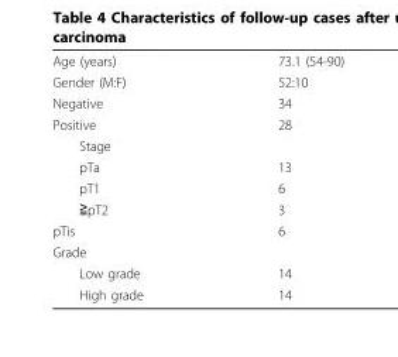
<table><tbody><tr><td>Age (years)</td><td>73.1 (54-90)</td></tr><tr><td>Gender (M:F)</td><td>52:10</td></tr><tr><td>Negative</td><td>34</td></tr><tr><td>Positive</td><td>28</td></tr><tr><td colspan="2">Stage</td></tr><tr><td>pTa</td><td>13</td></tr><tr><td>pT1</td><td>6</td></tr><tr><td>≧pT2</td><td>3</td></tr><tr><td>pTis</td><td>6</td></tr><tr><td colspan="2">Grade</td></tr><tr><td>Low grade</td><td>14</td></tr><tr><td>High grade</td><td>14</td></tr></tbody></table>